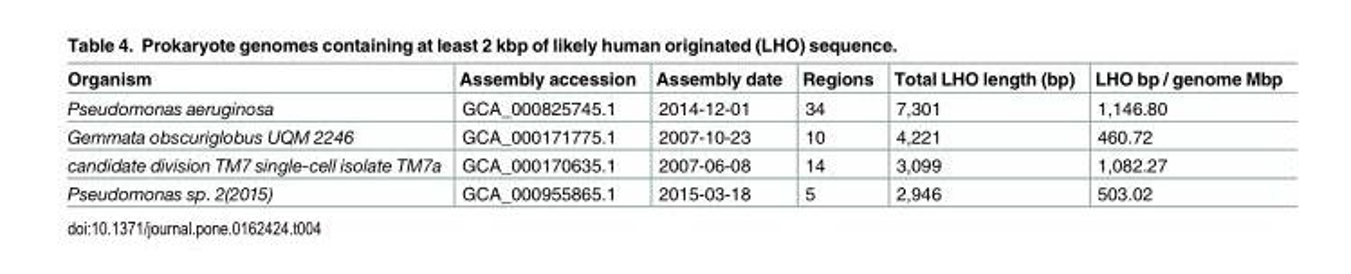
<table><thead><tr><td>Organism</td><td>Assembly accession</td><td>Assembly date</td><td>Regions</td><td>Total LHO length (bp)</td><td>LHO bp / genome Mbp</td></tr></thead><tbody><tr><td>Pseudomonas aeruginosa</td><td>GCA_000825745.1</td><td>2014-12-01</td><td>34</td><td>7,301</td><td>1,146.80</td></tr><tr><td>Gemmata obscuriglobus UQM 2246</td><td>GCA_000171775.1</td><td>2007-10-23</td><td>10</td><td>4,221</td><td>460.72</td></tr><tr><td>candidate division TM7 single-cell isolate TM7a</td><td>GCA_000170635.1</td><td>2007-06-08</td><td>14</td><td>3,099</td><td>1,082.27</td></tr><tr><td>Pseudomonas sp. 2(2015)</td><td>GCA_000955865.1</td><td>2015-03-18</td><td>5</td><td>2,946</td><td>503.02</td></tr></tbody></table>